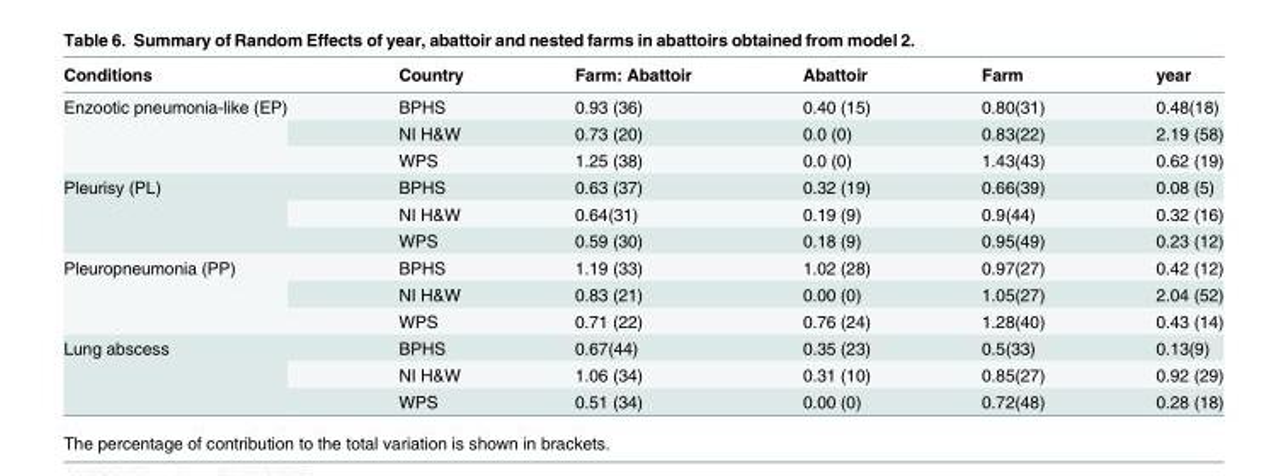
<table><thead><tr><td>Conditions</td><td>Country</td><td>Farm: Abattoir</td><td>Abattoir</td><td>Farm</td><td>year</td></tr></thead><tbody><tr><td rowspan="3">Enzootic pneumonia-like (EP)</td><td>BPHS</td><td>0.93 (36)</td><td>0.40 (15)</td><td>0.80(31)</td><td>0.48(18)</td></tr><tr><td>NI H&amp;W</td><td>0.73 (20)</td><td>0.0 (0)</td><td>0.83(22)</td><td>2.19 (58)</td></tr><tr><td>WPS</td><td>1.25 (38)</td><td>0.0 (0)</td><td>1.43(43)</td><td>0.62 (19)</td></tr><tr><td rowspan="3">Pleurisy (PL)</td><td>BPHS</td><td>0.63 (37)</td><td>0.32 (19)</td><td>0.66(39)</td><td>0.08 (5)</td></tr><tr><td>NI H&amp;W</td><td>0.64(31)</td><td>0.19 (9)</td><td>0.9(44)</td><td>0.32 (16)</td></tr><tr><td>WPS</td><td>0.59 (30)</td><td>0.18 (9)</td><td>0.95(49)</td><td>0.23 (12)</td></tr><tr><td rowspan="3">Pleuropneumonia (PP)</td><td>BPHS</td><td>1.19 (33)</td><td>1.02 (28)</td><td>0.97(27)</td><td>0.42 (12)</td></tr><tr><td>NI H&amp;W</td><td>0.83 (21)</td><td>0.00 (0)</td><td>1.05(27)</td><td>2.04 (52)</td></tr><tr><td>WPS</td><td>0.71 (22)</td><td>0.76 (24)</td><td>1.28(40)</td><td>0.43 (14)</td></tr><tr><td rowspan="3">Lung abscess</td><td>BPHS</td><td>0.67(44)</td><td>0.35 (23)</td><td>0.5(33)</td><td>0.13(9)</td></tr><tr><td>NI H&amp;W</td><td>1.06 (34)</td><td>0.31 (10)</td><td>0.85(27)</td><td>0.92 (29)</td></tr><tr><td>WPS</td><td>0.51 (34)</td><td>0.00 (0)</td><td>0.72(48)</td><td>0.28 (18)</td></tr></tbody></table>